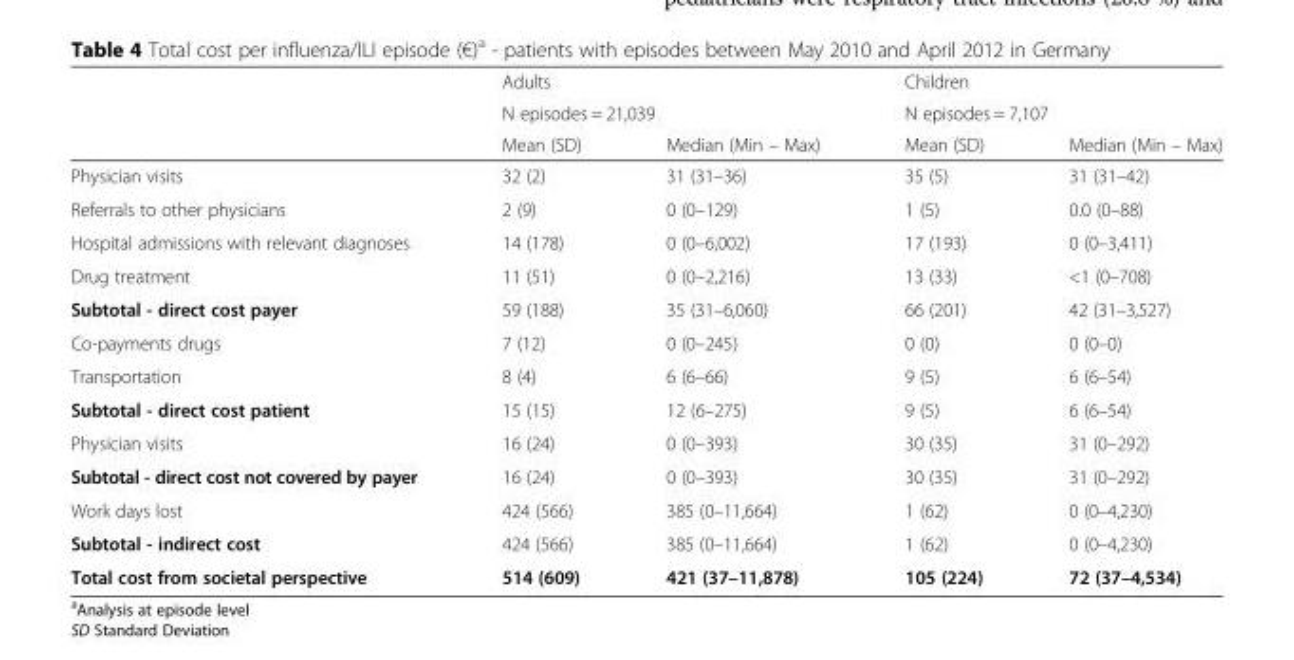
<table><thead><tr><td rowspan="3"></td><td rowspan="2" colspan="2">Adults N episodes = 21,039</td><td rowspan="2" colspan="2">Children N episodes = 7,107</td></tr><tr></tr><tr><td>Mean (SD)</td><td>Median (Min – Max)</td><td>Mean (SD)</td><td>Median (Min – Max)</td></tr></thead><tbody><tr><td>Physician visits</td><td>32 (2)</td><td>31 (31–36)</td><td>35 (5)</td><td>31 (31–42)</td></tr><tr><td>Referrals to other physicians</td><td>2 (9)</td><td>0 (0–129)</td><td>1 (5)</td><td>0.0 (0–88)</td></tr><tr><td>Hospital admissions with relevant diagnoses</td><td>14 (178)</td><td>0 (0–6,002)</td><td>17 (193)</td><td>0 (0–3,411)</td></tr><tr><td>Drug treatment</td><td>11 (51)</td><td>0 (0–2,216)</td><td>13 (33)</td><td>&lt;1 (0–708)</td></tr><tr><td>Subtotal - direct cost payer</td><td>59 (188)</td><td>35 (31–6,060)</td><td>66 (201)</td><td>42 (31–3,527)</td></tr><tr><td>Co-payments drugs</td><td>7 (12)</td><td>0 (0–245)</td><td>0 (0)</td><td>0 (0–0)</td></tr><tr><td>Transportation</td><td>8 (4)</td><td>6 (6–66)</td><td>9 (5)</td><td>6 (6–54)</td></tr><tr><td>Subtotal - direct cost patient</td><td>15 (15)</td><td>12 (6–275)</td><td>9 (5)</td><td>6 (6–54)</td></tr><tr><td>Physician visits</td><td>16 (24)</td><td>0 (0–393)</td><td>30 (35)</td><td>31 (0–292)</td></tr><tr><td>Subtotal - direct cost not covered by payer</td><td>16 (24)</td><td>0 (0–393)</td><td>30 (35)</td><td>31 (0–292)</td></tr><tr><td>Work days lost</td><td>424 (566)</td><td>385 (0–11,664)</td><td>1 (62)</td><td>0 (0–4,230)</td></tr><tr><td>Subtotal - indirect cost</td><td>424 (566)</td><td>385 (0–11,664)</td><td>1 (62)</td><td>0 (0–4,230)</td></tr><tr><td>Total cost from societal perspective</td><td>514 (609)</td><td>421 (37–11,878)</td><td>105 (224)</td><td>72 (37–4,534)</td></tr></tbody></table>